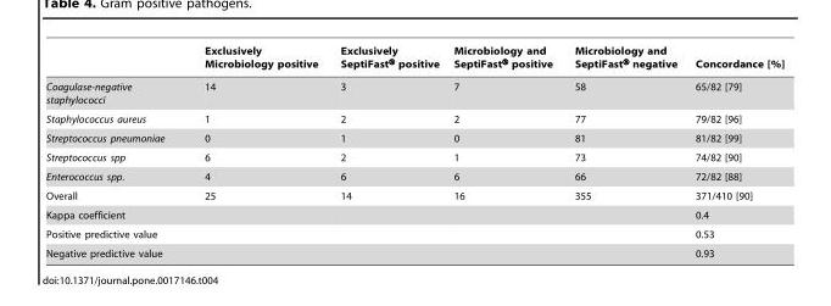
<table><thead><tr><td></td><td>Exclusively Microbiology positive</td><td>Exclusively SeptiFast<sup>®</sup> positive</td><td>Microbiology and SeptiFast<sup>®</sup> positive</td><td>Microbiology and SeptiFast<sup>®</sup> negative</td><td>Concordance [%]</td></tr></thead><tbody><tr><td>Coagulase-negative staphylococci</td><td>14</td><td>3</td><td>7</td><td>58</td><td>65/82 [79]</td></tr><tr><td>Staphylococcus aureus</td><td>1</td><td>2</td><td>2</td><td>77</td><td>79/82 [96]</td></tr><tr><td>Streptococcus pneumoniae</td><td>0</td><td>1</td><td>0</td><td>81</td><td>81/82 [99]</td></tr><tr><td>Streptococcus spp</td><td>6</td><td>2</td><td>1</td><td>73</td><td>74/82 [90]</td></tr><tr><td>Enterococcus spp.</td><td>4</td><td>6</td><td>6</td><td>66</td><td>72/82 [88]</td></tr><tr><td>Overall</td><td>25</td><td>14</td><td>16</td><td>355</td><td>371/410 [90]</td></tr><tr><td colspan="2">Kappa coefficient</td><td></td><td></td><td></td><td>0.4</td></tr><tr><td colspan="2">Positive predictive value</td><td></td><td></td><td></td><td>0.53</td></tr><tr><td colspan="2">Negative predictive value</td><td></td><td></td><td></td><td>0.93</td></tr></tbody></table>